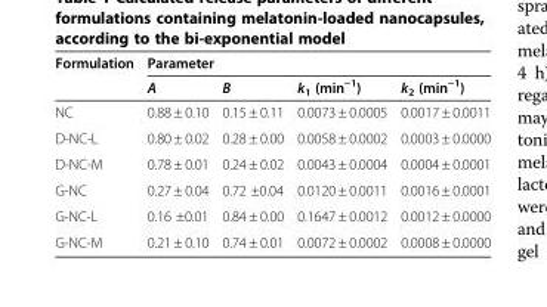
<table><thead><tr><td rowspan="2">Formulation</td><td colspan="4">Parameter</td></tr><tr><td>A</td><td>B</td><td>k<sub>1</sub> (min<sup>−1</sup>)</td><td>k<sub>2</sub> (min<sup>−1</sup>)</td></tr></thead><tbody><tr><td>NC</td><td>0.88 ± 0.10</td><td>0.15 ± 0.11</td><td>0.0073 ± 0.0005</td><td>0.0017 ± 0.0011</td></tr><tr><td>D-NC-L</td><td>0.80 ± 0.02</td><td>0.28 ± 0.00</td><td>0.0058 ± 0.0002</td><td>0.0003 ± 0.0000</td></tr><tr><td>D-NC-M</td><td>0.78 ± 0.01</td><td>0.24 ± 0.02</td><td>0.0043 ± 0.0004</td><td>0.0004 ± 0.0001</td></tr><tr><td>G-NC</td><td>0.27 ± 0.04</td><td>0.72 ±0.04</td><td>0.0120 ± 0.0011</td><td>0.0016 ± 0.0001</td></tr><tr><td>G-NC-L</td><td>0.16 ±0.01</td><td>0.84 ± 0.00</td><td>0.1647 ± 0.0012</td><td>0.0012 ± 0.0000</td></tr><tr><td>G-NC-M</td><td>0.21 ± 0.10</td><td>0.74 ± 0.01</td><td>0.0072 ± 0.0002</td><td>0.0008 ± 0.0000</td></tr></tbody></table>